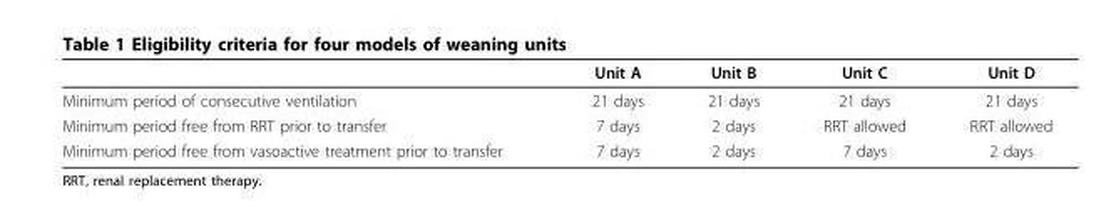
<table><thead><tr><td></td><td>Unit A</td><td>Unit B</td><td>Unit C</td><td>Unit D</td></tr></thead><tbody><tr><td>Minimum period of consecutive ventilation</td><td>21 days</td><td>21 days</td><td>21 days</td><td>21 days</td></tr><tr><td>Minimum period free from RRT prior to transfer</td><td>7 days</td><td>2 days</td><td>RRT allowed</td><td>RRT allowed</td></tr><tr><td>Minimum period free from vasoactive treatment prior to transfer</td><td>7 days</td><td>2 days</td><td>7 days</td><td>2 days</td></tr></tbody></table>